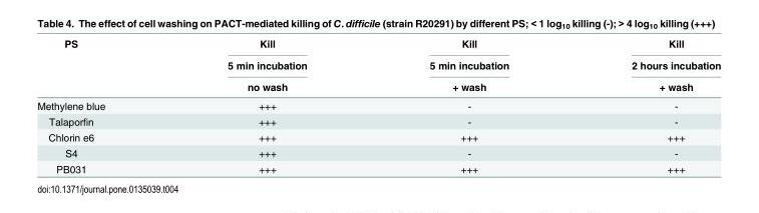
<table><thead><tr><td rowspan="3">PS</td><td rowspan="3">Kill 5 min incubation no wash</td><td rowspan="3">Kill 5 min incubation + wash</td><td rowspan="3">Kill 2 hours incubation + wash</td></tr><tr></tr><tr></tr></thead><tbody><tr><td>Methylene blue</td><td>+++</td><td>-</td><td>-</td></tr><tr><td>Talaporfin</td><td>+++</td><td>-</td><td>-</td></tr><tr><td>Chlorin e6</td><td>+++</td><td>+++</td><td>+++</td></tr><tr><td>S4</td><td>+++</td><td>-</td><td>-</td></tr><tr><td>PB031</td><td>+++</td><td>+++</td><td>+++</td></tr></tbody></table>